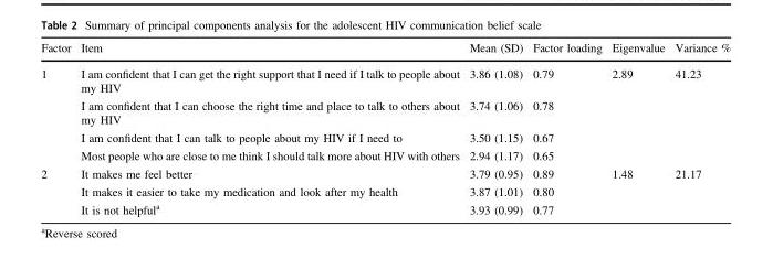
<table><thead><tr><td>Factor</td><td>Item</td><td>Mean (SD)</td><td>Factor loading</td><td>Eigenvalue</td><td>Variance %</td></tr></thead><tbody><tr><td rowspan="4">1</td><td>I am confident that I can get the right support that I need if I talk to people about my HIV</td><td>3.86 (1.08)</td><td>0.79</td><td>2.89</td><td>41.23</td></tr><tr><td>I am confident that I can choose the right time and place to talk to others about my HIV</td><td>3.74 (1.06)</td><td>0.78</td><td></td><td></td></tr><tr><td>I am confident that I can talk to people about my HIV if I need to</td><td>3.50 (1.15)</td><td>0.67</td><td></td><td></td></tr><tr><td>Most people who are close to me think I should talk more about HIV with others</td><td>2.94 (1.17)</td><td>0.65</td><td></td><td></td></tr><tr><td rowspan="3">2</td><td>It makes me feel better</td><td>3.79 (0.95)</td><td>0.89</td><td>1.48</td><td>21.17</td></tr><tr><td>It makes it easier to take my medication and look after my health</td><td>3.87 (1.01)</td><td>0.80</td><td></td><td></td></tr><tr><td>It is not helpful<sup>a</sup></td><td>3.93 (0.99)</td><td>0.77</td><td></td><td></td></tr></tbody></table>